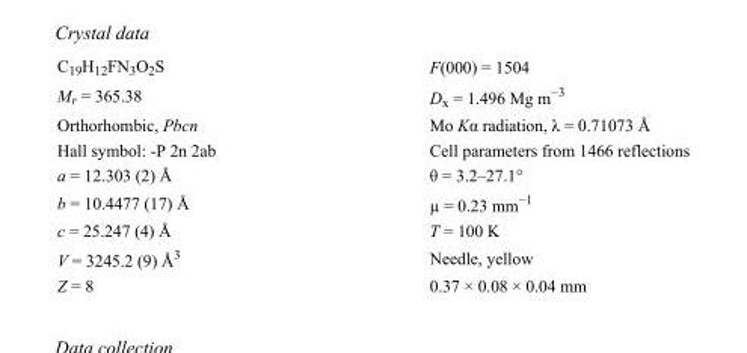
<table><tbody><tr><td>C<sub>19</sub>H<sub>12</sub>FN<sub>3</sub>O<sub>2</sub>S</td><td>F(000) = 1504</td></tr><tr><td>M<sub>r</sub> = 365.38</td><td>D<sub>x</sub> = 1.496 Mg m<sup>−3</sup></td></tr><tr><td>Orthorhombic, Pbcn</td><td>Mo Kα radiation, λ = 0.71073 Å</td></tr><tr><td>Hall symbol: -P 2n 2ab</td><td>Cell parameters from 1466 reflections</td></tr><tr><td>a = 12.303 (2) Å</td><td>θ = 3.2–27.1°</td></tr><tr><td>b = 10.4477 (17) Å</td><td>µ = 0.23 mm<sup>−1</sup></td></tr><tr><td>c = 25.247 (4) Å</td><td>T = 100 K</td></tr><tr><td>V = 3245.2 (9) Å<sup>3</sup></td><td>Needle, yellow</td></tr><tr><td>Z = 8</td><td>0.37 × 0.08 × 0.04 mm</td></tr></tbody></table>